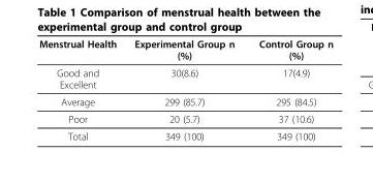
<table><thead><tr><td>Menstrual Health</td><td>Experimental Group n (%)</td><td>Control Group n (%)</td></tr></thead><tbody><tr><td>Good and Excellent</td><td>30(8.6)</td><td>17(4.9)</td></tr><tr><td>Average</td><td>299 (85.7)</td><td>295 (84.5)</td></tr><tr><td>Poor</td><td>20 (5.7)</td><td>37 (10.6)</td></tr><tr><td>Total</td><td>349 (100)</td><td>349 (100)</td></tr></tbody></table>